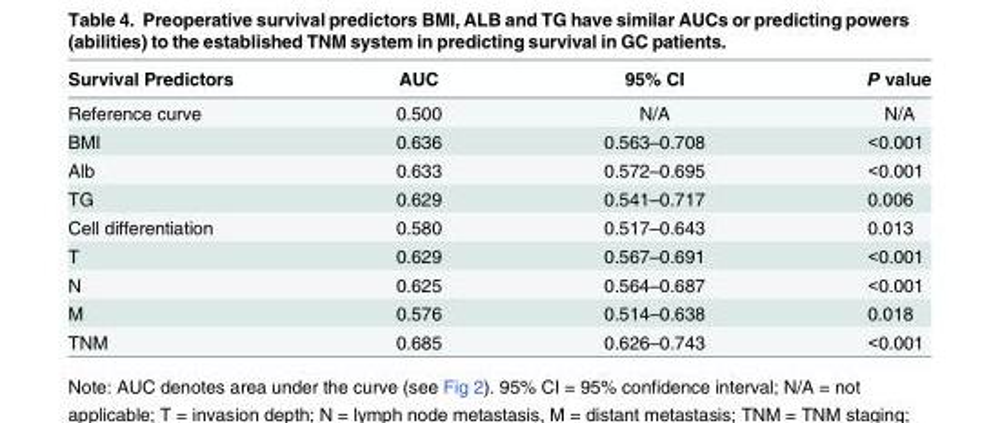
<table><thead><tr><td>Survival Predictors</td><td>AUC</td><td>95% CI</td><td>P value</td></tr></thead><tbody><tr><td>Reference curve</td><td>0.500</td><td>N/A</td><td>N/A</td></tr><tr><td>BMI</td><td>0.636</td><td>0.563–0.708</td><td>&lt;0.001</td></tr><tr><td>Alb</td><td>0.633</td><td>0.572–0.695</td><td>&lt;0.001</td></tr><tr><td>TG</td><td>0.629</td><td>0.541–0.717</td><td>0.006</td></tr><tr><td>Cell differentiation</td><td>0.580</td><td>0.517–0.643</td><td>0.013</td></tr><tr><td>T</td><td>0.629</td><td>0.567–0.691</td><td>&lt;0.001</td></tr><tr><td>N</td><td>0.625</td><td>0.564–0.687</td><td>&lt;0.001</td></tr><tr><td>M</td><td>0.576</td><td>0.514–0.638</td><td>0.018</td></tr><tr><td>TNM</td><td>0.685</td><td>0.626–0.743</td><td>&lt;0.001</td></tr></tbody></table>